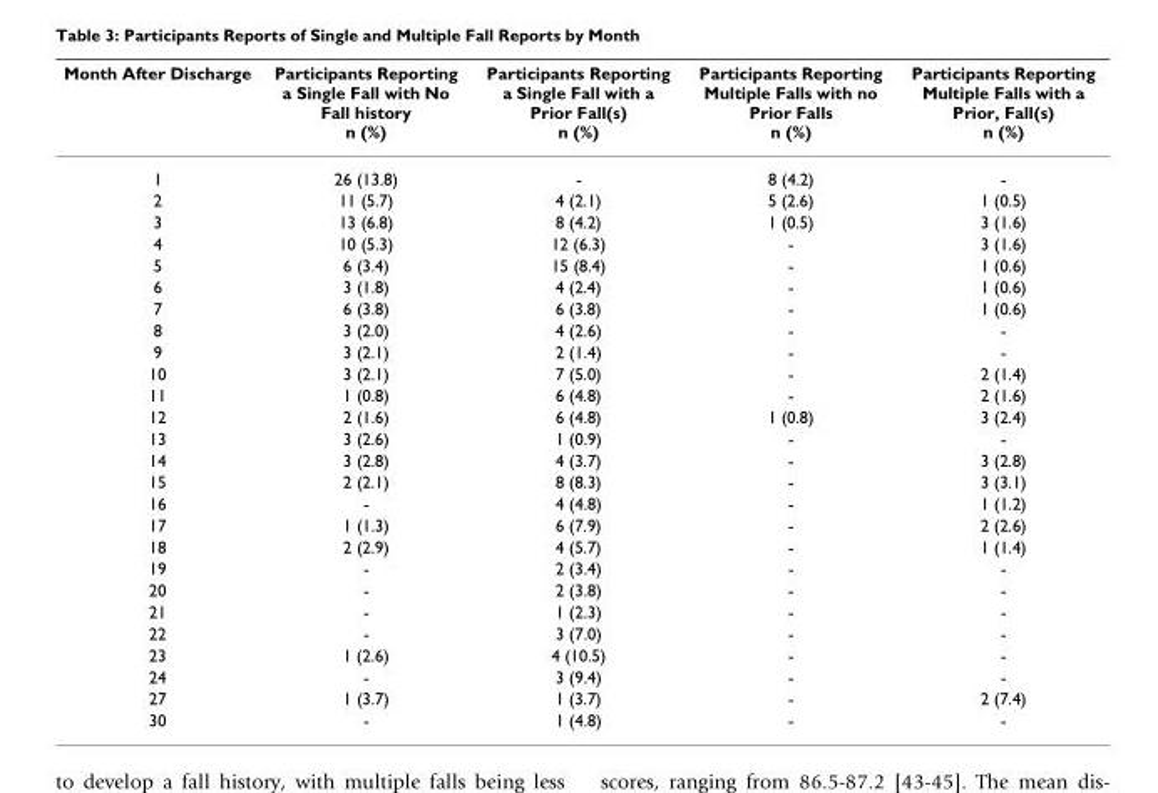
<table><thead><tr><td>Month After Discharge</td><td>Participants Reporting a Single Fall with No Fall history n (%)</td><td>Participants Reporting a Single Fall with a Prior Fall(s) n (%)</td><td>Participants Reporting Multiple Falls with no Prior Falls n (%)</td><td>Participants Reporting Multiple Falls with a Prior, Fall(s) n (%)</td></tr></thead><tbody><tr><td>1</td><td>26 (13.8)</td><td>-</td><td>8 (4.2)</td><td>-</td></tr><tr><td>2</td><td>11 (5.7)</td><td>4 (2.1)</td><td>5 (2.6)</td><td>1 (0.5)</td></tr><tr><td>3</td><td>13 (6.8)</td><td>8 (4.2)</td><td>1 (0.5)</td><td>3 (1.6)</td></tr><tr><td>4</td><td>10 (5.3)</td><td>12 (6.3)</td><td>-</td><td>3 (1.6)</td></tr><tr><td>5</td><td>6 (3.4)</td><td>15 (8.4)</td><td>-</td><td>1 (0.6)</td></tr><tr><td>6</td><td>3 (1.8)</td><td>4 (2.4)</td><td>-</td><td>1 (0.6)</td></tr><tr><td>7</td><td>6 (3.8)</td><td>6 (3.8)</td><td>-</td><td>1 (0.6)</td></tr><tr><td>8</td><td>3 (2.0)</td><td>4 (2.6)</td><td>-</td><td>-</td></tr><tr><td>9</td><td>3 (2.1)</td><td>2 (1.4)</td><td>-</td><td>-</td></tr><tr><td>10</td><td>3 (2.1)</td><td>7 (5.0)</td><td>-</td><td>2 (1.4)</td></tr><tr><td>11</td><td>1 (0.8)</td><td>6 (4.8)</td><td>-</td><td>2 (1.6)</td></tr><tr><td>12</td><td>2 (1.6)</td><td>6 (4.8)</td><td>1 (0.8)</td><td>3 (2.4)</td></tr><tr><td>13</td><td>3 (2.6)</td><td>1 (0.9)</td><td>-</td><td>-</td></tr><tr><td>14</td><td>3 (2.8)</td><td>4 (3.7)</td><td>-</td><td>3 (2.8)</td></tr><tr><td>15</td><td>2 (2.1)</td><td>8 (8.3)</td><td>-</td><td>3 (3.1)</td></tr><tr><td>16</td><td>-</td><td>4 (4.8)</td><td>-</td><td>1 (1.2)</td></tr><tr><td>17</td><td>1 (1.3)</td><td>6 (7.9)</td><td>-</td><td>2 (2.6)</td></tr><tr><td>18</td><td>2 (2.9)</td><td>4 (5.7)</td><td>-</td><td>1 (1.4)</td></tr><tr><td>19</td><td>-</td><td>2 (3.4)</td><td>-</td><td>-</td></tr><tr><td>20</td><td>-</td><td>2 (3.8)</td><td>-</td><td>-</td></tr><tr><td>21</td><td>-</td><td>1 (2.3)</td><td>-</td><td>-</td></tr><tr><td>22</td><td>-</td><td>3 (7.0)</td><td>-</td><td>-</td></tr><tr><td>23</td><td>1 (2.6)</td><td>4 (10.5)</td><td>-</td><td>-</td></tr><tr><td>24</td><td>-</td><td>3 (9.4)</td><td>-</td><td>-</td></tr><tr><td>27</td><td>1 (3.7)</td><td>1 (3.7)</td><td>-</td><td>2 (7.4)</td></tr><tr><td>30</td><td>-</td><td>1 (4.8)</td><td>-</td><td>-</td></tr></tbody></table>